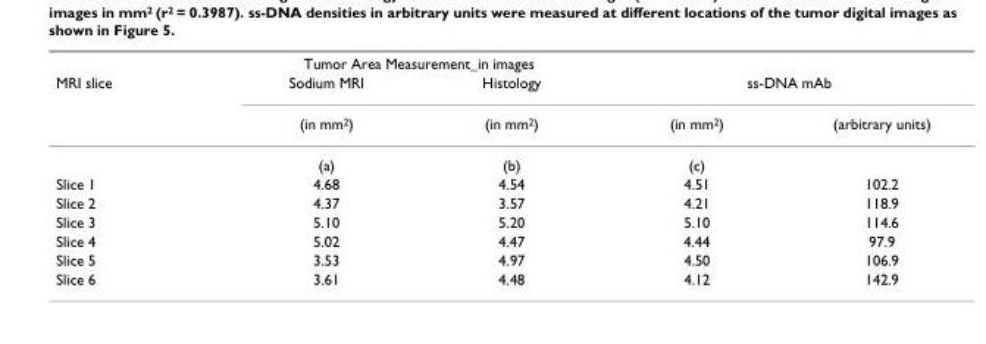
<table><thead><tr><td rowspan="3">MRI slice</td><td colspan="2">Tumor Area Measurement_in images</td><td></td><td></td></tr><tr><td rowspan="2">Sodium MRI (in mm<sup>2</sup>)</td><td rowspan="2">Histology (in mm<sup>2</sup>)</td><td colspan="2">ss-DNA mAb</td></tr><tr><td>(in mm<sup>2</sup>)</td><td>(arbitrary units)</td></tr></thead><tbody><tr><td></td><td>(a)</td><td>(b)</td><td>(c)</td><td></td></tr><tr><td>Slice 1</td><td>4.68</td><td>4.54</td><td>4.51</td><td>102.2</td></tr><tr><td>Slice 2</td><td>4.37</td><td>3.57</td><td>4.21</td><td>118.9</td></tr><tr><td>Slice 3</td><td>5.10</td><td>5.20</td><td>5.10</td><td>114.6</td></tr><tr><td>Slice 4</td><td>5.02</td><td>4.47</td><td>4.44</td><td>97.9</td></tr><tr><td>Slice 5</td><td>3.53</td><td>4.97</td><td>4.50</td><td>106.9</td></tr><tr><td>Slice 6</td><td>3.61</td><td>4.48</td><td>4.12</td><td>142.9</td></tr></tbody></table>